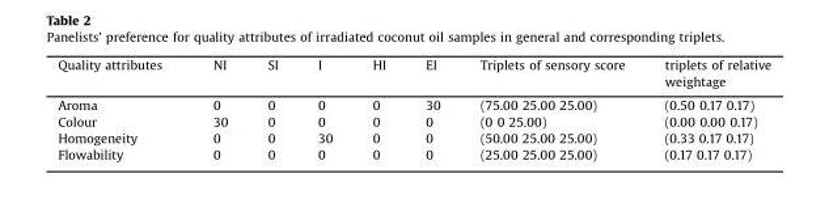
<table><thead><tr><td>Quality attributes</td><td>NI</td><td>SI</td><td>I</td><td>HI</td><td>EI</td><td>Triplets of sensory score</td><td>triplets of relative weightage</td></tr></thead><tbody><tr><td>Aroma</td><td>0</td><td>0</td><td>0</td><td>0</td><td>30</td><td>(75.00 25.00 25.00)</td><td>(0.50 0.17 0.17)</td></tr><tr><td>Colour</td><td>30</td><td>0</td><td>0</td><td>0</td><td>0</td><td>(0 0 25.00)</td><td>(0.00 0.00 0.17)</td></tr><tr><td>Homogeneity</td><td>0</td><td>0</td><td>30</td><td>0</td><td>0</td><td>(50.00 25.00 25.00)</td><td>(0.33 0.17 0.17)</td></tr><tr><td>Flowability</td><td>0</td><td>0</td><td>0</td><td>0</td><td>0</td><td>(25.00 25.00 25.00)</td><td>(0.17 0.17 0.17)</td></tr></tbody></table>